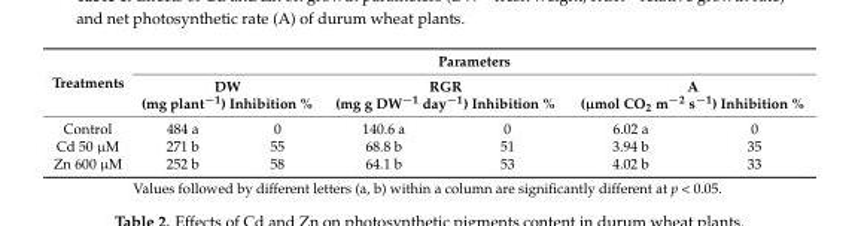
<table><thead><tr><td rowspan="3">Treatments Control</td><td colspan="6">Parameters</td></tr><tr><td colspan="2">DW (mg plant<sup>−1</sup>) Inhibition %</td><td colspan="2">RGR (mg g DW<sup>−1</sup> day<sup>−1</sup>) Inhibition %</td><td colspan="2">A (µmol CO<sub>2</sub> m<sup>−2</sup> s<sup>−1</sup>) Inhibition %</td></tr><tr><td>484 a</td><td>0</td><td>140.6 a</td><td>0</td><td>6.02 a</td><td>0</td></tr></thead><tbody><tr><td>Cd 50 µM</td><td>271 b</td><td>55</td><td>68.8 b</td><td>51</td><td>3.94 b</td><td>35</td></tr><tr><td>Zn 600 µM</td><td>252 b</td><td>58</td><td>64.1 b</td><td>53</td><td>4.02 b</td><td>33</td></tr></tbody></table>